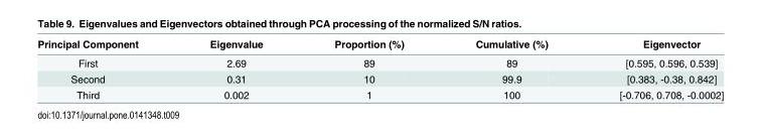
<table><thead><tr><td>Principal Component</td><td>Eigenvalue</td><td>Proportion (%)</td><td>Cumulative (%)</td><td>Eigenvector</td></tr></thead><tbody><tr><td>First</td><td>2.69</td><td>89</td><td>89</td><td>[0.595, 0.596, 0.539]</td></tr><tr><td>Second</td><td>0.31</td><td>10</td><td>99.9</td><td>[0.383, -0.38, 0.842]</td></tr><tr><td>Third</td><td>0.002</td><td>1</td><td>100</td><td>[-0.706, 0.708, -0.0002]</td></tr></tbody></table>